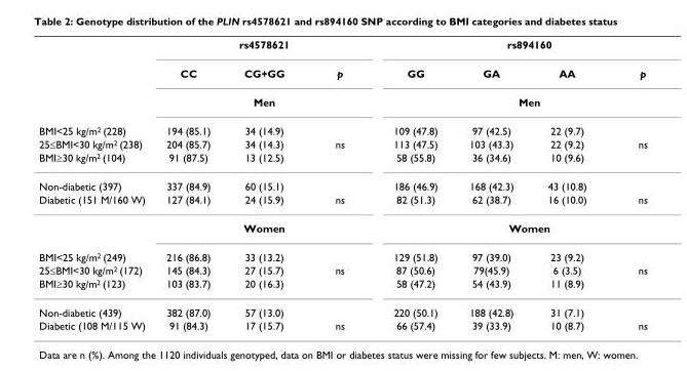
<table><thead><tr><td rowspan="2"></td><td colspan="3">rs4578621</td><td colspan="4">rs894160</td></tr><tr><td>CC</td><td>CG+GG</td><td>p</td><td>GG</td><td>GA</td><td>AA</td><td>p</td></tr></thead><tbody><tr><td></td><td colspan="3">Men</td><td colspan="4">Men</td></tr><tr><td>BMI&lt;25 kg/m<sup>2</sup> (228)</td><td>194 (85.1)</td><td>34 (14.9)</td><td></td><td>109 (47.8)</td><td>97 (42.5)</td><td>22 (9.7)</td><td></td></tr><tr><td>25≤BMI&lt;30 kg/m<sup>2</sup> (238)</td><td>204 (85.7)</td><td>34 (14.3)</td><td>ns</td><td>113 (47.5)</td><td>103 (43.3)</td><td>22 (9.2)</td><td>ns</td></tr><tr><td>BMI≥30 kg/m<sup>2</sup> (104)</td><td>91 (87.5)</td><td>13 (12.5)</td><td></td><td>58 (55.8)</td><td>36 (34.6)</td><td>10 (9.6)</td><td></td></tr><tr><td>Non-diabetic (397)</td><td>337 (84.9)</td><td>60 (15.1)</td><td></td><td>186 (46.9)</td><td>168 (42.3)</td><td>43 (10.8)</td><td></td></tr><tr><td rowspan="2">Diabetic (151 M/160 W)</td><td>127 (84.1)</td><td>24 (15.9)</td><td>ns</td><td>82 (51.3)</td><td>62 (38.7)</td><td>16 (10.0)</td><td>ns</td></tr><tr><td colspan="3">Women</td><td colspan="4">Women</td></tr><tr><td>BMI&lt;25 kg/m<sup>2</sup> (249)</td><td>216 (86.8)</td><td>33 (13.2)</td><td></td><td>129 (51.8)</td><td>97 (39.0)</td><td>23 (9.2)</td><td></td></tr><tr><td>25≤BMI&lt;30 kg/m<sup>2</sup> (172)</td><td>145 (84.3)</td><td>27 (15.7)</td><td>ns</td><td>87 (50.6)</td><td>79(45.9)</td><td>6 (3.5)</td><td>ns</td></tr><tr><td>BMI≥30 kg/m<sup>2</sup> (123)</td><td>103 (83.7)</td><td>20 (16.3)</td><td></td><td>58 (47.2)</td><td>54 (43.9)</td><td>11 (8.9)</td><td></td></tr><tr><td>Non-diabetic (439)</td><td>382 (87.0)</td><td>57 (13.0)</td><td></td><td>220 (50.1)</td><td>188 (42.8)</td><td>31 (7.1)</td><td></td></tr><tr><td>Diabetic (108 M/115 W)</td><td>91 (84.3)</td><td>17 (15.7)</td><td>ns</td><td>66 (57.4)</td><td>39 (33.9)</td><td>10 (8.7)</td><td>ns</td></tr></tbody></table>